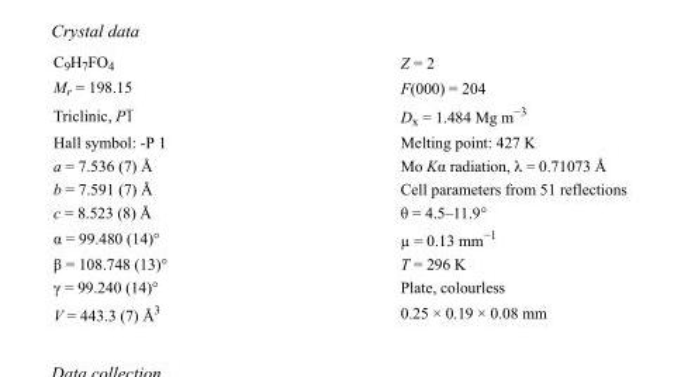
<table><tbody><tr><td>C<sub>9</sub>H<sub>7</sub>FO<sub>4</sub></td><td>Z = 2</td></tr><tr><td>M<sub>r</sub> = 198.15</td><td>F(000) = 204</td></tr><tr><td>Triclinic, P1</td><td>D<sub>x</sub> = 1.484 Mg m<sup>−3</sup></td></tr><tr><td>Hall symbol: -P 1</td><td>Melting point: 427 K</td></tr><tr><td>a = 7.536 (7) Å</td><td>Mo Kα radiation, λ = 0.71073 Å</td></tr><tr><td>b = 7.591 (7) Å</td><td>Cell parameters from 51 reflections</td></tr><tr><td>c = 8.523 (8) Å</td><td>θ = 4.5–11.9°</td></tr><tr><td>α = 99.480 (14)°</td><td>µ = 0.13 mm<sup>−1</sup></td></tr><tr><td>β = 108.748 (13)°</td><td>T = 296 K</td></tr><tr><td>γ = 99.240 (14)°</td><td>Plate, colourless</td></tr><tr><td>V = 443.3 (7) Å<sup>3</sup></td><td>0.25 × 0.19 × 0.08 mm</td></tr></tbody></table>